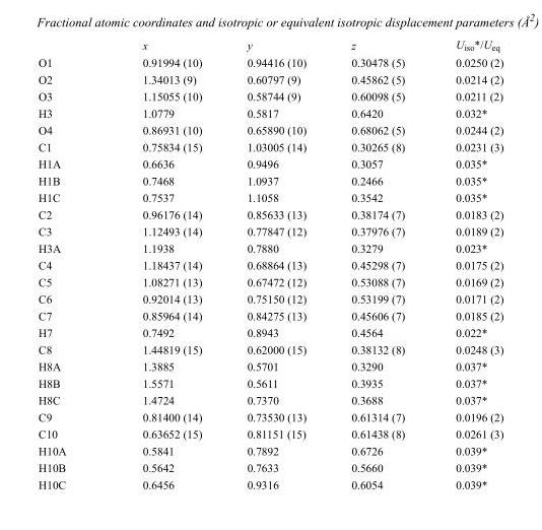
<table><thead><tr><td></td><td>x</td><td>y</td><td>z</td><td>U<sub>iso</sub>*/U<sub>eq</sub></td></tr></thead><tbody><tr><td>O1</td><td>0.91994 (10)</td><td>0.94416 (10)</td><td>0.30478 (5)</td><td>0.0250 (2)</td></tr><tr><td>O2</td><td>1.34013 (9)</td><td>0.60797 (9)</td><td>0.45862 (5)</td><td>0.0214 (2)</td></tr><tr><td>O3</td><td>1.15055 (10)</td><td>0.58744 (9)</td><td>0.60098 (5)</td><td>0.0211 (2)</td></tr><tr><td>H3</td><td>1.0779</td><td>0.5817</td><td>0.6420</td><td>0.032*</td></tr><tr><td>O4</td><td>0.86931 (10)</td><td>0.65890 (10)</td><td>0.68062 (5)</td><td>0.0244 (2)</td></tr><tr><td>C1</td><td>0.75834 (15)</td><td>1.03005 (14)</td><td>0.30265 (8)</td><td>0.0231 (3)</td></tr><tr><td>H1A</td><td>0.6636</td><td>0.9496</td><td>0.3057</td><td>0.035*</td></tr><tr><td>H1B</td><td>0.7468</td><td>1.0937</td><td>0.2466</td><td>0.035*</td></tr><tr><td>H1C</td><td>0.7537</td><td>1.1058</td><td>0.3542</td><td>0.035*</td></tr><tr><td>C2</td><td>0.96176 (14)</td><td>0.85633 (13)</td><td>0.38174 (7)</td><td>0.0183 (2)</td></tr><tr><td>C3</td><td>1.12493 (14)</td><td>0.77847 (12)</td><td>0.37976 (7)</td><td>0.0189 (2)</td></tr><tr><td>H3A</td><td>1.1938</td><td>0.7880</td><td>0.3279</td><td>0.023*</td></tr><tr><td>C4</td><td>1.18437 (14)</td><td>0.68864 (13)</td><td>0.45298 (7)</td><td>0.0175 (2)</td></tr><tr><td>C5</td><td>1.08271 (13)</td><td>0.67472 (12)</td><td>0.53088 (7)</td><td>0.0169 (2)</td></tr><tr><td>C6</td><td>0.92014 (13)</td><td>0.75150 (12)</td><td>0.53199 (7)</td><td>0.0171 (2)</td></tr><tr><td>C7</td><td>0.85964 (14)</td><td>0.84275 (13)</td><td>0.45606 (7)</td><td>0.0185 (2)</td></tr><tr><td>H7</td><td>0.7492</td><td>0.8943</td><td>0.4564</td><td>0.022*</td></tr><tr><td>C8</td><td>1.44819 (15)</td><td>0.62000 (15)</td><td>0.38132 (8)</td><td>0.0248 (3)</td></tr><tr><td>H8A</td><td>1.3885</td><td>0.5701</td><td>0.3290</td><td>0.037*</td></tr><tr><td>H8B</td><td>1.5571</td><td>0.5611</td><td>0.3935</td><td>0.037*</td></tr><tr><td>H8C</td><td>1.4724</td><td>0.7370</td><td>0.3688</td><td>0.037*</td></tr><tr><td>C9</td><td>0.81400 (14)</td><td>0.73530 (13)</td><td>0.61314 (7)</td><td>0.0196 (2)</td></tr><tr><td>C10</td><td>0.63652 (15)</td><td>0.81151 (15)</td><td>0.61438 (8)</td><td>0.0261 (3)</td></tr><tr><td>H10A</td><td>0.5841</td><td>0.7892</td><td>0.6726</td><td>0.039*</td></tr><tr><td>H10B</td><td>0.5642</td><td>0.7633</td><td>0.5660</td><td>0.039*</td></tr><tr><td>H10C</td><td>0.6456</td><td>0.9316</td><td>0.6054</td><td>0.039*</td></tr></tbody></table>